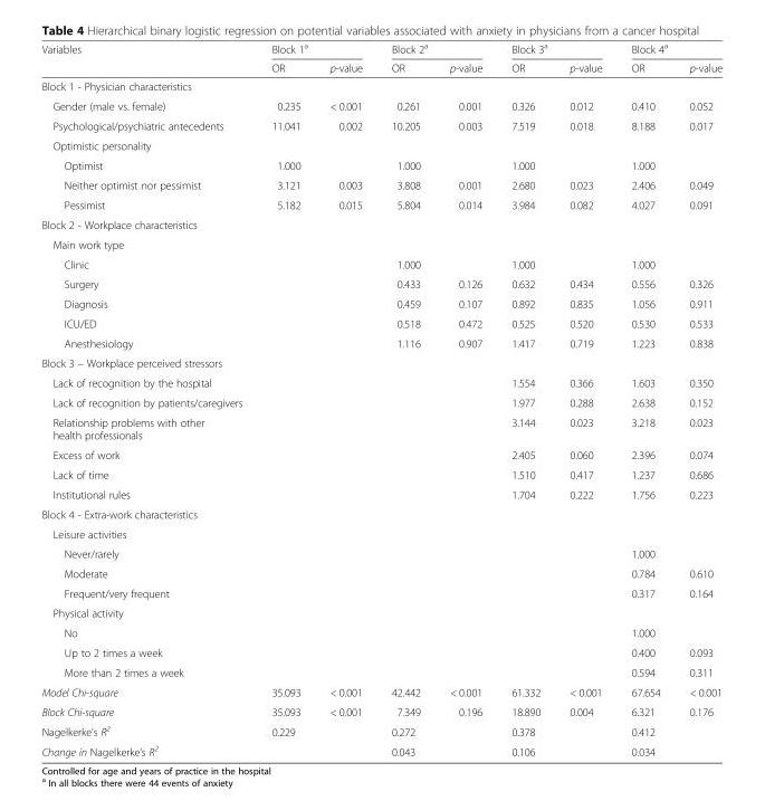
<table><thead><tr><td rowspan="2">Variables</td><td colspan="2">Block 1<sup>a</sup></td><td colspan="2">Block 2<sup>a</sup></td><td colspan="2">Block 3<sup>a</sup></td><td colspan="2">Block 4<sup>a</sup></td></tr><tr><td>OR</td><td>p-value</td><td>OR</td><td>p-value</td><td>OR</td><td>p-value</td><td>OR</td><td>p-value</td></tr></thead><tbody><tr><td colspan="9">Block 1 - Physician characteristics</td></tr><tr><td>Gender (male vs. female)</td><td>0.235</td><td>&lt; 0.001</td><td>0.261</td><td>0.001</td><td>0.326</td><td>0.012</td><td>0.410</td><td>0.052</td></tr><tr><td>Psychological/psychiatric antecedents</td><td>11.041</td><td>0.002</td><td>10.205</td><td>0.003</td><td>7.519</td><td>0.018</td><td>8.188</td><td>0.017</td></tr><tr><td colspan="9">Optimistic personality</td></tr><tr><td>Optimist</td><td>1.000</td><td></td><td>1.000</td><td></td><td>1.000</td><td></td><td>1.000</td><td></td></tr><tr><td>Neither optimist nor pessimist</td><td>3.121</td><td>0.003</td><td>3.808</td><td>0.001</td><td>2.680</td><td>0.023</td><td>2.406</td><td>0.049</td></tr><tr><td>Pessimist</td><td>5.182</td><td>0.015</td><td>5.804</td><td>0.014</td><td>3.984</td><td>0.082</td><td>4.027</td><td>0.091</td></tr><tr><td colspan="9">Block 2 - Workplace characteristics</td></tr><tr><td colspan="9">Main work type</td></tr><tr><td>Clinic</td><td></td><td></td><td>1.000</td><td></td><td>1.000</td><td></td><td>1.000</td><td></td></tr><tr><td>Surgery</td><td></td><td></td><td>0.433</td><td>0.126</td><td>0.632</td><td>0.434</td><td>0.556</td><td>0.326</td></tr><tr><td>Diagnosis</td><td></td><td></td><td>0.459</td><td>0.107</td><td>0.892</td><td>0.835</td><td>1.056</td><td>0.911</td></tr><tr><td>ICU/ED</td><td></td><td></td><td>0.518</td><td>0.472</td><td>0.525</td><td>0.520</td><td>0.530</td><td>0.533</td></tr><tr><td>Anesthesiology</td><td></td><td></td><td>1.116</td><td>0.907</td><td>1.417</td><td>0.719</td><td>1.223</td><td>0.838</td></tr><tr><td colspan="9">Block 3 – Workplace perceived stressors</td></tr><tr><td>Lack of recognition by the hospital</td><td></td><td></td><td></td><td></td><td>1.554</td><td>0.366</td><td>1.603</td><td>0.350</td></tr><tr><td>Lack of recognition by patients/caregivers</td><td></td><td></td><td></td><td></td><td>1.977</td><td>0.288</td><td>2.638</td><td>0.152</td></tr><tr><td>Relationship problems with other health professionals</td><td></td><td></td><td></td><td></td><td>3.144</td><td>0.023</td><td>3.218</td><td>0.023</td></tr><tr><td>Excess of work</td><td></td><td></td><td></td><td></td><td>2.405</td><td>0.060</td><td>2.396</td><td>0.074</td></tr><tr><td>Lack of time</td><td></td><td></td><td></td><td></td><td>1.510</td><td>0.417</td><td>1.237</td><td>0.686</td></tr><tr><td>Institutional rules</td><td></td><td></td><td></td><td></td><td>1.704</td><td>0.222</td><td>1.756</td><td>0.223</td></tr><tr><td colspan="9">Block 4 - Extra-work characteristics</td></tr><tr><td colspan="9">Leisure activities</td></tr><tr><td>Never/rarely</td><td></td><td></td><td></td><td></td><td></td><td></td><td>1.000</td><td></td></tr><tr><td>Moderate</td><td></td><td></td><td></td><td></td><td></td><td></td><td>0.784</td><td>0.610</td></tr><tr><td>Frequent/very frequent</td><td></td><td></td><td></td><td></td><td></td><td></td><td>0.317</td><td>0.164</td></tr><tr><td colspan="9">Physical activity</td></tr><tr><td>No</td><td></td><td></td><td></td><td></td><td></td><td></td><td>1.000</td><td></td></tr><tr><td>Up to 2 times a week</td><td></td><td></td><td></td><td></td><td></td><td></td><td>0.400</td><td>0.093</td></tr><tr><td>More than 2 times a week</td><td></td><td></td><td></td><td></td><td></td><td></td><td>0.594</td><td>0.311</td></tr><tr><td>Model Chi-square</td><td>35.093</td><td>&lt; 0.001</td><td>42.442</td><td>&lt; 0.001</td><td>61.332</td><td>&lt; 0.001</td><td>67.654</td><td>&lt; 0.001</td></tr><tr><td>Block Chi-square</td><td>35.093</td><td>&lt; 0.001</td><td>7.349</td><td>0.196</td><td>18.890</td><td>0.004</td><td>6.321</td><td>0.176</td></tr><tr><td>Nagelkerke’s R<sup>2</sup></td><td colspan="2">0.229</td><td colspan="2">0.272</td><td colspan="2">0.378</td><td colspan="2">0.412</td></tr><tr><td>Change in Nagelkerke’s R<sup>2</sup></td><td colspan="2"></td><td colspan="2">0.043</td><td colspan="2">0.106</td><td colspan="2">0.034</td></tr></tbody></table>